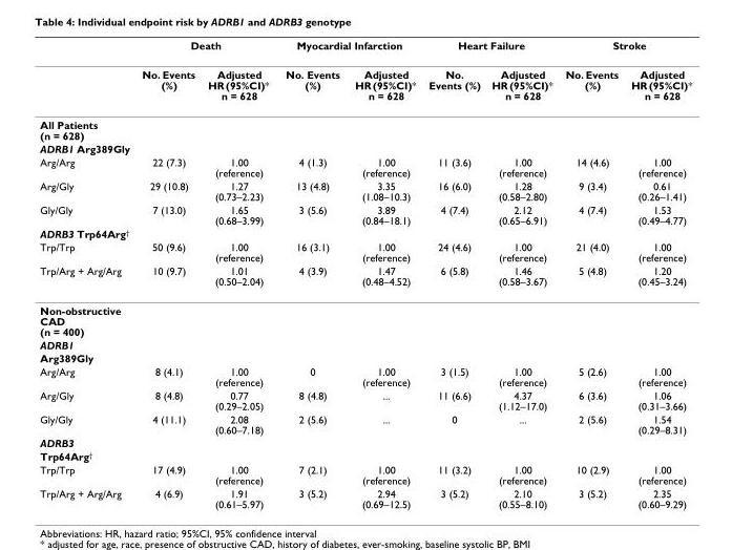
<table><thead><tr><td rowspan="2"></td><td colspan="2">Death</td><td colspan="2">Myocardial Infarction</td><td colspan="2">Heart Failure</td><td colspan="2">Stroke</td></tr><tr><td>No. Events (%)</td><td>Adjusted HR (95%CI)* n = 628</td><td>No. Events (%)</td><td>Adjusted HR (95%CI)* n = 628</td><td>No. Events (%)</td><td>Adjusted HR (95%CI)* n = 628</td><td>No. Events (%)</td><td>Adjusted HR (95%CI)* n = 628</td></tr></thead><tbody><tr><td colspan="9">All Patients (n = 628)</td></tr><tr><td colspan="9">ADRB1 Arg389Gly</td></tr><tr><td>Arg/Arg</td><td>22 (7.3)</td><td>1.00 (reference)</td><td>4 (1.3)</td><td>1.00 (reference)</td><td>11 (3.6)</td><td>1.00 (reference)</td><td>14 (4.6)</td><td>1.00 (reference)</td></tr><tr><td>Arg/Gly</td><td>29 (10.8)</td><td>1.27 (0.73–2.23)</td><td>13 (4.8)</td><td>3.35 (1.08–10.3)</td><td>16 (6.0)</td><td>1.28 (0.58–2.80)</td><td>9 (3.4)</td><td>0.61 (0.26–1.41)</td></tr><tr><td>Gly/Gly</td><td>7 (13.0)</td><td>1.65 (0.68–3.99)</td><td>3 (5.6)</td><td>3.89 (0.84–18.1)</td><td>4 (7.4)</td><td>2.12 (0.65–6.91)</td><td>4 (7.4)</td><td>1.53 (0.49–4.77)</td></tr><tr><td colspan="9">ADRB3 Trp64Arg<sup>†</sup></td></tr><tr><td>Trp/Trp</td><td>50 (9.6)</td><td>1.00 (reference)</td><td>16 (3.1)</td><td>1.00 (reference)</td><td>24 (4.6)</td><td>1.00 (reference)</td><td>21 (4.0)</td><td>1.00 (reference)</td></tr><tr><td>Trp/Arg + Arg/Arg</td><td>10 (9.7)</td><td>1.01 (0.50–2.04)</td><td>4 (3.9)</td><td>1.47 (0.48–4.52)</td><td>6 (5.8)</td><td>1.46 (0.58–3.67)</td><td>5 (4.8)</td><td>1.20 (0.45–3.24)</td></tr><tr><td colspan="9">Non-obstructive CAD (n = 400)</td></tr><tr><td colspan="9">ADRB1</td></tr><tr><td colspan="9">Arg389Gly</td></tr><tr><td>Arg/Arg</td><td>8 (4.1)</td><td>1.00 (reference)</td><td>0</td><td>1.00 (reference)</td><td>3 (1.5)</td><td>1.00 (reference)</td><td>5 (2.6)</td><td>1.00 (reference)</td></tr><tr><td>Arg/Gly</td><td>8 (4.8)</td><td>0.77 (0.29–2.05)</td><td>8 (4.8)</td><td>...</td><td>11 (6.6)</td><td>4.37 (1.12–17.0)</td><td>6 (3.6)</td><td>1.06 (0.31–3.66)</td></tr><tr><td>Gly/Gly</td><td>4 (11.1)</td><td>2.08 (0.60–7.18)</td><td>2 (5.6)</td><td>...</td><td>0</td><td>...</td><td>2 (5.6)</td><td>1.54 (0.29–8.31)</td></tr><tr><td colspan="9">ADRB3</td></tr><tr><td colspan="9">Trp64Arg<sup>†</sup></td></tr><tr><td>Trp/Trp</td><td>17 (4.9)</td><td>1.00 (reference)</td><td>7 (2.1)</td><td>1.00 (reference)</td><td>11 (3.2)</td><td>1.00 (reference)</td><td>10 (2.9)</td><td>1.00 (reference)</td></tr><tr><td>Trp/Arg + Arg/Arg</td><td>4 (6.9)</td><td>1.91 (0.61–5.97)</td><td>3 (5.2)</td><td>2.94 (0.69–12.5)</td><td>3 (5.2)</td><td>2.10 (0.55–8.10)</td><td>3 (5.2)</td><td>2.35 (0.60–9.29)</td></tr></tbody></table>